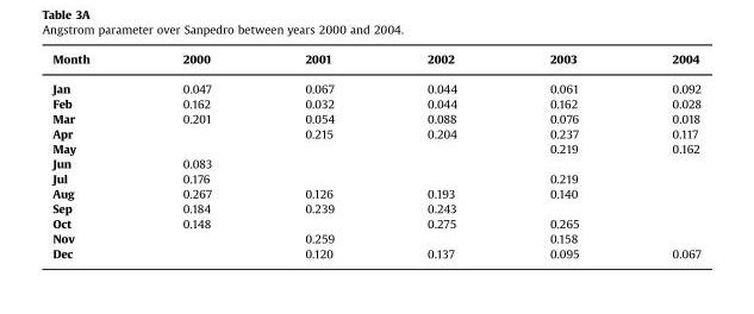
<table><thead><tr><td>Month</td><td>2000</td><td>2001</td><td>2002</td><td>2003</td><td>2004</td></tr></thead><tbody><tr><td>Jan</td><td>0.047</td><td>0.067</td><td>0.044</td><td>0.061</td><td>0.092</td></tr><tr><td>Feb</td><td>0.162</td><td>0.032</td><td>0.044</td><td>0.162</td><td>0.028</td></tr><tr><td>Mar</td><td>0.201</td><td>0.054</td><td>0.088</td><td>0.076</td><td>0.018</td></tr><tr><td>Apr</td><td></td><td>0.215</td><td>0.204</td><td>0.237</td><td>0.117</td></tr><tr><td>May</td><td></td><td></td><td></td><td>0.219</td><td>0.162</td></tr><tr><td>Jun</td><td>0.083</td><td></td><td></td><td></td><td></td></tr><tr><td>Jul</td><td>0.176</td><td></td><td></td><td>0.219</td><td></td></tr><tr><td>Aug</td><td>0.267</td><td>0.126</td><td>0.193</td><td>0.140</td><td></td></tr><tr><td>Sep</td><td>0.184</td><td>0.239</td><td>0.243</td><td></td><td></td></tr><tr><td>Oct</td><td>0.148</td><td></td><td>0.275</td><td>0.265</td><td></td></tr><tr><td>Nov</td><td></td><td>0.259</td><td></td><td>0.158</td><td></td></tr><tr><td>Dec</td><td></td><td>0.120</td><td>0.137</td><td>0.095</td><td>0.067</td></tr></tbody></table>